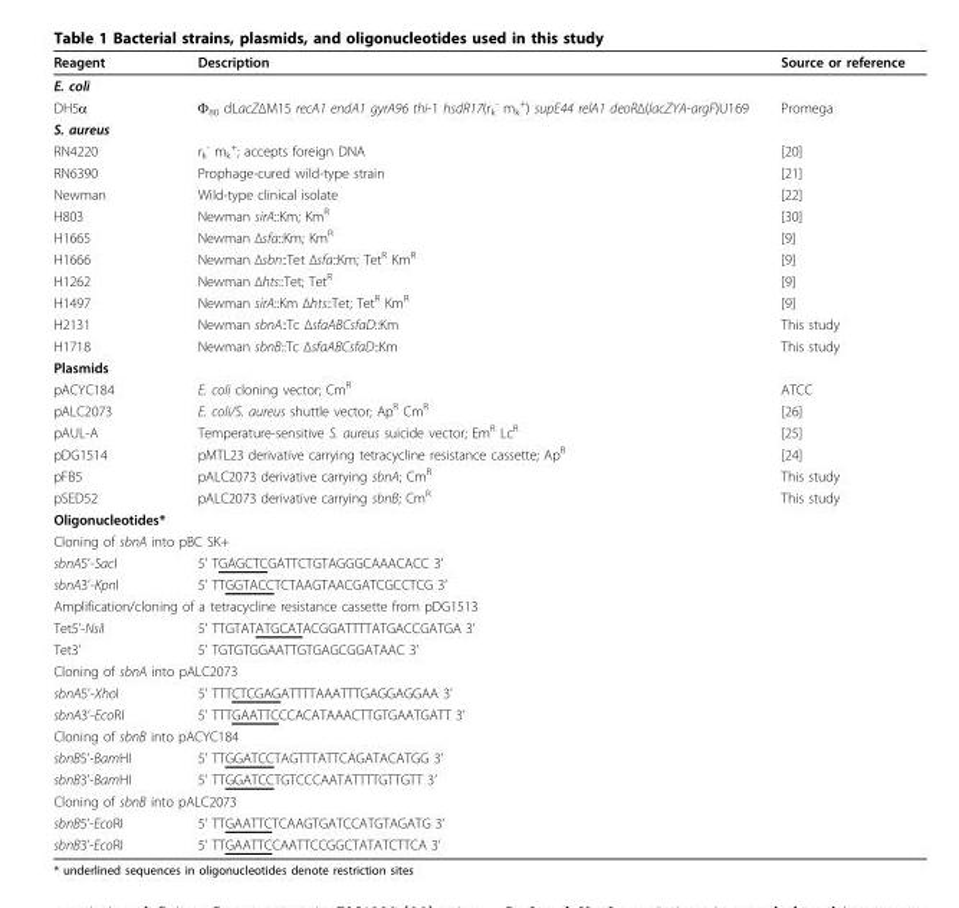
<table><thead><tr><td>Reagent</td><td>Description</td><td>Source or reference</td></tr></thead><tbody><tr><td colspan="3">E. coli</td></tr><tr><td>DH5α</td><td>Φ<sub>80</sub> dLacZΔM15 recA1 endA1 gyrA96 thi-1 hsdR17(r<sub>k</sub> <sup>-</sup> m<sub>k</sub> <sup>+</sup>) supE44 relA1 deoRΔ(lacZYA-argF)U169</td><td>Promega</td></tr><tr><td colspan="3">S. aureus</td></tr><tr><td>RN4220</td><td>r<sub>k</sub> <sup>-</sup> m<sub>k</sub> <sup>+</sup>; accepts foreign DNA</td><td>[20]</td></tr><tr><td>RN6390</td><td>Prophage-cured wild-type strain</td><td>[21]</td></tr><tr><td>Newman</td><td>Wild-type clinical isolate</td><td>[22]</td></tr><tr><td>H803</td><td>Newman sirA::Km; Km<sup>R</sup></td><td>[30]</td></tr><tr><td>H1665</td><td>Newman Δsfa::Km; Km<sup>R</sup></td><td>[9]</td></tr><tr><td>H1666</td><td>Newman Δsbn::Tet Δsfa::Km; Tet<sup>R</sup> Km<sup>R</sup></td><td>[9]</td></tr><tr><td>H1262</td><td>Newman Δhts::Tet; Tet<sup>R</sup></td><td>[9]</td></tr><tr><td>H1497</td><td>Newman sirA::Km Δhts::Tet; Tet<sup>R</sup> Km<sup>R</sup></td><td>[9]</td></tr><tr><td>H2131</td><td>Newman sbnA::Tc ΔsfaABCsfaD::Km</td><td>This study</td></tr><tr><td>H1718</td><td>Newman sbnB::Tc ΔsfaABCsfaD::Km</td><td>This study</td></tr><tr><td colspan="3">Plasmids</td></tr><tr><td>pACYC184</td><td>E. coli cloning vector; Cm<sup>R</sup></td><td>ATCC</td></tr><tr><td>pALC2073</td><td>E. coli/S. aureus shuttle vector; Ap<sup>R</sup> Cm<sup>R</sup></td><td>[26]</td></tr><tr><td>pAUL-A</td><td>Temperature-sensitive S. aureus suicide vector; Em<sup>R</sup> Lc<sup>R</sup></td><td>[25]</td></tr><tr><td>pDG1514</td><td>pMTL23 derivative carrying tetracycline resistance cassette; Ap<sup>R</sup></td><td>[24]</td></tr><tr><td>pFB5</td><td>pALC2073 derivative carrying sbnA; Cm<sup>R</sup></td><td>This study</td></tr><tr><td>pSED52</td><td>pALC2073 derivative carrying sbnB; Cm<sup>R</sup></td><td>This study</td></tr><tr><td colspan="3">Oligonucleotides*</td></tr><tr><td colspan="3">Cloning of sbnA into pBC SK+</td></tr><tr><td>sbnA5’-SacI</td><td colspan="2">5’ TGAGCTCGATTCTGTAGGGCAAACACC 3’</td></tr><tr><td>sbnA3’-KpnI</td><td colspan="2">5’ TTGGTACCTCTAAGTAACGATCGCCTCG 3’</td></tr><tr><td colspan="3">Amplification/cloning of a tetracycline resistance cassette from pDG1513</td></tr><tr><td>Tet5’-NsiI</td><td colspan="2">5’ TTGTATATGCATACGGATTTTATGACCGATGA 3’</td></tr><tr><td>Tet3’</td><td colspan="2">5’ TGTGTGGAATTGTGAGCGGATAAC 3’</td></tr><tr><td colspan="3">Cloning of sbnA into pALC2073</td></tr><tr><td>sbnA5’-XhoI</td><td colspan="2">5’ TTTCTCGAGATTTTAAATTTGAGGAGGAA 3’</td></tr><tr><td>sbnA3’-EcoRI</td><td colspan="2">5’ TTTGAATTCCCACATAAACTTGTGAATGATT 3’</td></tr><tr><td colspan="3">Cloning of sbnB into pACYC184</td></tr><tr><td>sbnB5’-BamHI</td><td colspan="2">5’ TTGGATCCTAGTTTATTCAGATACATGG 3’</td></tr><tr><td>sbnB3’-BamHI</td><td colspan="2">5’ TTGGATCCTGTCCCAATATTTTGTTGTT 3’</td></tr><tr><td colspan="3">Cloning of sbnB into pALC2073</td></tr><tr><td>sbnB5’-EcoRI</td><td colspan="2">5’ TTGAATTCTCAAGTGATCCATGTAGATG 3’</td></tr><tr><td>sbnB3’-EcoRI</td><td colspan="2">5’ TTGAATTCCAATTCCGGCTATATCTTCA 3’</td></tr></tbody></table>